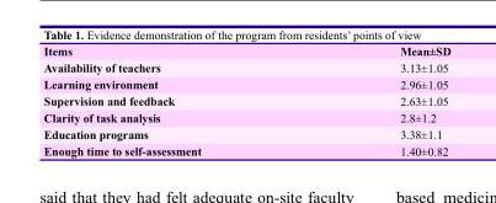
<table><thead><tr><td>Items</td><td>Mean±SD</td></tr></thead><tbody><tr><td>Availability of teachers</td><td>3.13±1.05</td></tr><tr><td>Learning environment</td><td>2.96±1.05</td></tr><tr><td>Supervision and feedback</td><td>2.63±1.05</td></tr><tr><td>Clarity of task analysis</td><td>2.8±1.2</td></tr><tr><td>Education programs</td><td>3.38±1.1</td></tr><tr><td>Enough time to self-assessment</td><td>1.40±0.82</td></tr></tbody></table>